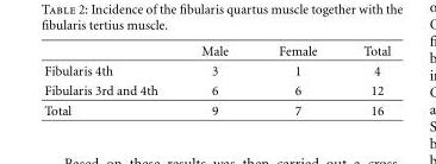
<table><thead><tr><td></td><td>Male</td><td>Female</td><td>Total</td></tr></thead><tbody><tr><td>Fibularis 4th</td><td>3</td><td>1</td><td>4</td></tr><tr><td>Fibularis 3rd and 4th</td><td>6</td><td>6</td><td>12</td></tr><tr><td>Total</td><td>9</td><td>7</td><td>16</td></tr></tbody></table>